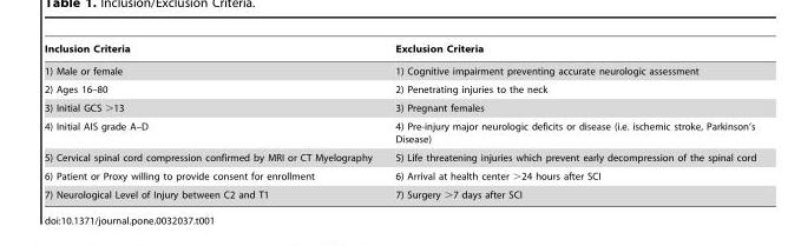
<table><thead><tr><td>Inclusion Criteria</td><td>Exclusion Criteria</td></tr></thead><tbody><tr><td>1) Male or female</td><td>1) Cognitive impairment preventing accurate neurologic assessment</td></tr><tr><td>2) Ages 16–80</td><td>2) Penetrating injuries to the neck</td></tr><tr><td>3) Initial GCS &gt;13</td><td>3) Pregnant females</td></tr><tr><td>4) Initial AIS grade A–D</td><td>4) Pre-injury major neurologic deficits or disease (i.e. ischemic stroke, Parkinson’s Disease)</td></tr><tr><td>5) Cervical spinal cord compression confirmed by MRI or CT Myelography</td><td>5) Life threatening injuries which prevent early decompression of the spinal cord</td></tr><tr><td>6) Patient or Proxy willing to provide consent for enrollment</td><td>6) Arrival at health center &gt;24 hours after SCI</td></tr><tr><td>7) Neurological Level of Injury between C2 and T1</td><td>7) Surgery &gt;7 days after SCI</td></tr></tbody></table>